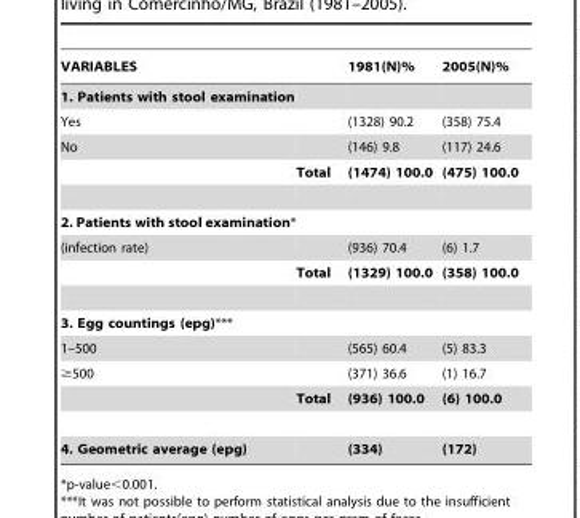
<table><thead><tr><td>VARIABLES</td><td></td><td>1981(N)%</td><td>2005(N)%</td></tr></thead><tbody><tr><td colspan="4">1. Patients with stool examination</td></tr><tr><td>Yes</td><td></td><td>(1328) 90.2</td><td>(358) 75.4</td></tr><tr><td rowspan="2">No</td><td></td><td>(146) 9.8</td><td>(117) 24.6</td></tr><tr><td>Total</td><td>(1474) 100.0</td><td>(475) 100.0</td></tr><tr><td colspan="4">2. Patients with stool examination*</td></tr><tr><td rowspan="2">(infection rate)</td><td></td><td>(936) 70.4</td><td>(6) 1.7</td></tr><tr><td>Total</td><td>(1329) 100.0</td><td>(358) 100.0</td></tr><tr><td colspan="4">3. Egg countings (epg)***</td></tr><tr><td>1–500</td><td></td><td>(565) 60.4</td><td>(5) 83.3</td></tr><tr><td rowspan="2">≥500</td><td></td><td>(371) 36.6</td><td>(1) 16.7</td></tr><tr><td>Total</td><td>(936) 100.0</td><td>(6) 100.0</td></tr><tr><td>4. Geometric average (epg)</td><td></td><td>(334)</td><td>(172)</td></tr></tbody></table>